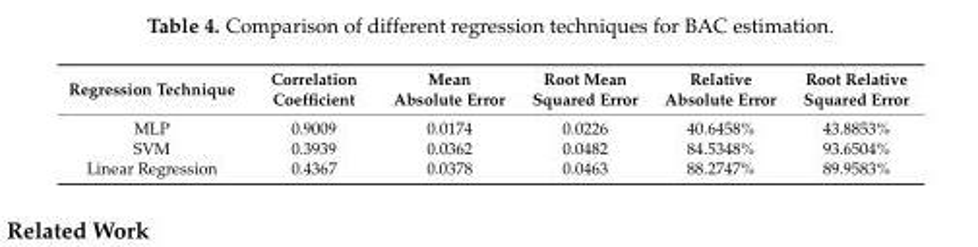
<table><thead><tr><td>Regression Technique</td><td>Correlation Coefficient</td><td>Mean Absolute Error</td><td>Root Mean Squared Error</td><td>Relative Absolute Error</td><td>Root Relative Squared Error</td></tr></thead><tbody><tr><td>MLP</td><td>0.9009</td><td>0.0174</td><td>0.0226</td><td>40.6458%</td><td>43.8853%</td></tr><tr><td>SVM</td><td>0.3939</td><td>0.0362</td><td>0.0482</td><td>84.5348%</td><td>93.6504%</td></tr><tr><td>Linear Regression</td><td>0.4367</td><td>0.0378</td><td>0.0463</td><td>88.2747%</td><td>89.9583%</td></tr></tbody></table>